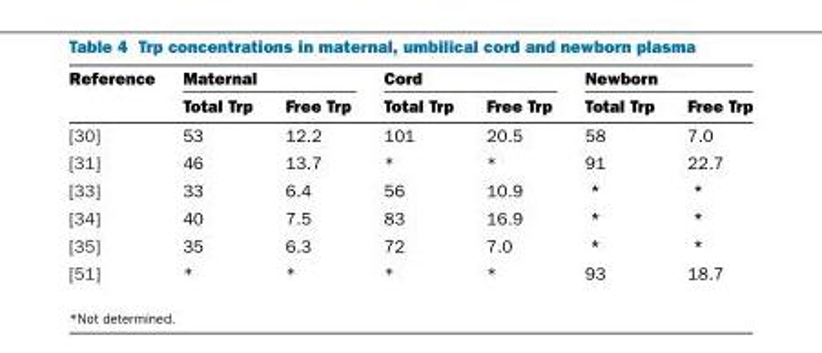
<table><thead><tr><td rowspan="2">Reference</td><td colspan="2">Maternal</td><td colspan="2">Cord</td><td colspan="2">Newborn</td></tr><tr><td>Total Trp</td><td>Free Trp</td><td>Total Trp</td><td>Free Trp</td><td>Total Trp</td><td>Free Trp</td></tr></thead><tbody><tr><td>[30]</td><td>53</td><td>12.2</td><td>101</td><td>20.5</td><td>58</td><td>7.0</td></tr><tr><td>[31]</td><td>46</td><td>13.7</td><td>*</td><td>*</td><td>91</td><td>22.7</td></tr><tr><td>[33]</td><td>33</td><td>6.4</td><td>56</td><td>10.9</td><td>*</td><td>*</td></tr><tr><td>[34]</td><td>40</td><td>7.5</td><td>83</td><td>16.9</td><td>*</td><td>*</td></tr><tr><td>[35]</td><td>35</td><td>6.3</td><td>72</td><td>7.0</td><td>*</td><td>*</td></tr><tr><td>[51]</td><td>*</td><td>*</td><td>*</td><td>*</td><td>93</td><td>18.7</td></tr></tbody></table>